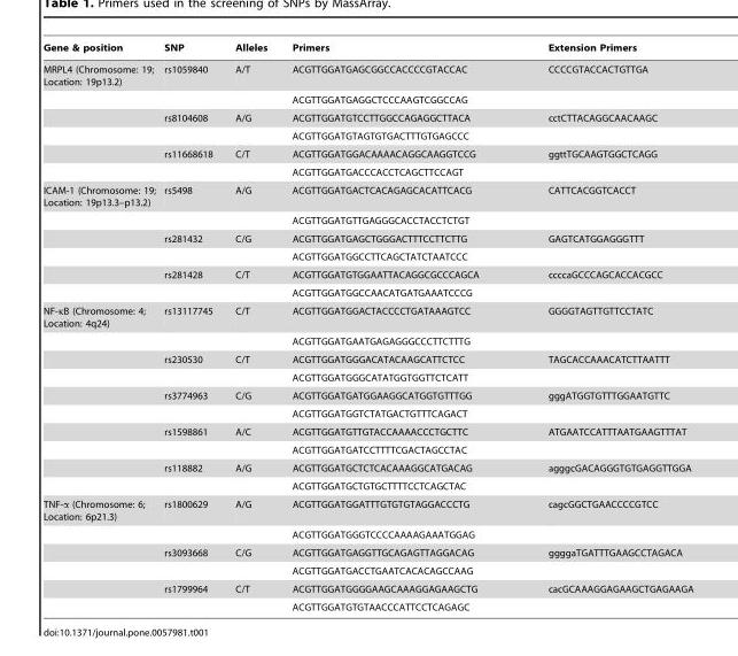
<table><thead><tr><td>Gene &amp; position</td><td>SNP</td><td>Alleles</td><td>Primers</td><td>Extension Primers</td></tr></thead><tbody><tr><td rowspan="6">MRPL4 (Chromosome: 19; Location: 19p13.2)</td><td>rs1059840</td><td>A/T</td><td>ACGTTGGATGAGCGGCCACCCCGTACCAC</td><td>CCCCGTACCACTGTTGA</td></tr><tr><td></td><td></td><td>ACGTTGGATGAGGCTCCCAAGTCGGCCAG</td><td></td></tr><tr><td>rs8104608</td><td>A/G</td><td>ACGTTGGATGTCCTTGGCCAGAGGCTTACA</td><td>cctCTTACAGGCAACAAGC</td></tr><tr><td></td><td></td><td>ACGTTGGATGTAGTGTGACTTTGTGAGCCC</td><td></td></tr><tr><td>rs11668618</td><td>C/T</td><td>ACGTTGGATGGACAAAACAGGCAAGGTCCG</td><td>ggttTGCAAGTGGCTCAGG</td></tr><tr><td></td><td></td><td>ACGTTGGATGACCCACCTCAGCTTCCAGT</td><td></td></tr><tr><td rowspan="6">ICAM-1 (Chromosome: 19; Location: 19p13.3–p13.2)</td><td>rs5498</td><td>A/G</td><td>ACGTTGGATGACTCACAGAGCACATTCACG</td><td>CATTCACGGTCACCT</td></tr><tr><td></td><td></td><td>ACGTTGGATGTTGAGGGCACCTACCTCTGT</td><td></td></tr><tr><td>rs281432</td><td>C/G</td><td>ACGTTGGATGAGCTGGGACTTTCCTTCTTG</td><td>GAGTCATGGAGGGTTT</td></tr><tr><td></td><td></td><td>ACGTTGGATGGCCTTCAGCTATCTAATCCC</td><td></td></tr><tr><td>rs281428</td><td>C/T</td><td>ACGTTGGATGTGGAATTACAGGCGCCCAGCA</td><td>ccccaGCCCAGCACCACGCC</td></tr><tr><td></td><td></td><td>ACGTTGGATGGCCAACATGATGAAATCCCG</td><td></td></tr><tr><td rowspan="10">NF-κB (Chromosome: 4; Location: 4q24)</td><td>rs13117745</td><td>C/T</td><td>ACGTTGGATGGACTACCCCTGATAAAGTCC</td><td>GGGGTAGTTGTTCCTATC</td></tr><tr><td></td><td></td><td>ACGTTGGATGAATGAGAGGGCCCTTCTTTG</td><td></td></tr><tr><td>rs230530</td><td>C/T</td><td>ACGTTGGATGGGACATACAAGCATTCTCC</td><td>TAGCACCAAACATCTTAATTT</td></tr><tr><td></td><td></td><td>ACGTTGGATGGGCATATGGTGGTTCTCATT</td><td></td></tr><tr><td>rs3774963</td><td>C/G</td><td>ACGTTGGATGATGGAAGGCATGGTGTTTGG</td><td>gggATGGTGTTTGGAATGTTC</td></tr><tr><td></td><td></td><td>ACGTTGGATGGTCTATGACTGTTTCAGACT</td><td></td></tr><tr><td>rs1598861</td><td>A/C</td><td>ACGTTGGATGTTGTACCAAAACCCTGCTTC</td><td>ATGAATCCATTTAATGAAGTTTAT</td></tr><tr><td></td><td></td><td>ACGTTGGATGATCCTTTTCGACTAGCCTAC</td><td></td></tr><tr><td>rs118882</td><td>A/G</td><td>ACGTTGGATGCTCTCACAAAGGCATGACAG</td><td>agggcGACAGGGTGTGAGGTTGGA</td></tr><tr><td></td><td></td><td>ACGTTGGATGCTGTGCTTTTCCTCAGCTAC</td><td></td></tr><tr><td rowspan="6">TNF-α (Chromosome: 6; Location: 6p21.3)</td><td>rs1800629</td><td>A/G</td><td>ACGTTGGATGGATTTGTGTGTAGGACCCTG</td><td>cagcGGCTGAACCCCGTCC</td></tr><tr><td></td><td></td><td>ACGTTGGATGGGTCCCCAAAAGAAATGGAG</td><td></td></tr><tr><td>rs3093668</td><td>C/G</td><td>ACGTTGGATGAGGTTGCAGAGTTAGGACAG</td><td>ggggaTGATTTGAAGCCTAGACA</td></tr><tr><td></td><td></td><td>ACGTTGGATGACCTGAATCACACAGCCAAG</td><td></td></tr><tr><td>rs1799964</td><td>C/T</td><td>ACGTTGGATGGGGAAGCAAAGGAGAAGCTG</td><td>cacGCAAAGGAGAAGCTGAGAAGA</td></tr><tr><td></td><td></td><td>ACGTTGGATGTGTAACCCATTCCTCAGAGC</td><td></td></tr></tbody></table>